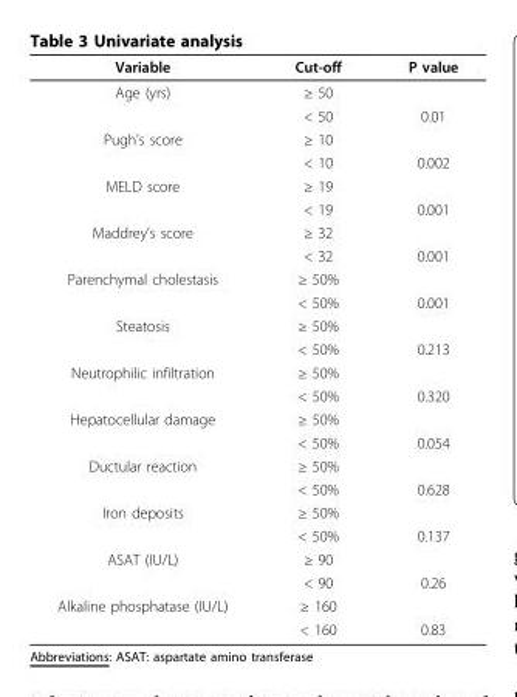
<table><thead><tr><td>Variable</td><td>Cut-off</td><td>P value</td></tr></thead><tbody><tr><td rowspan="2">Age (yrs)</td><td>≥ 50</td><td></td></tr><tr><td>&lt; 50</td><td>0.01</td></tr><tr><td rowspan="2">Pugh’s score</td><td>≥ 10</td><td></td></tr><tr><td>&lt; 10</td><td>0.002</td></tr><tr><td rowspan="2">MELD score</td><td>≥ 19</td><td></td></tr><tr><td>&lt; 19</td><td>0.001</td></tr><tr><td rowspan="2">Maddrey’s score</td><td>≥ 32</td><td></td></tr><tr><td>&lt; 32</td><td>0.001</td></tr><tr><td rowspan="2">Parenchymal cholestasis</td><td>≥ 50%</td><td></td></tr><tr><td>&lt; 50%</td><td>0.001</td></tr><tr><td rowspan="2">Steatosis</td><td>≥ 50%</td><td></td></tr><tr><td>&lt; 50%</td><td>0.213</td></tr><tr><td rowspan="2">Neutrophilic infiltration</td><td>≥ 50%</td><td></td></tr><tr><td>&lt; 50%</td><td>0.320</td></tr><tr><td rowspan="2">Hepatocellular damage</td><td>≥ 50%</td><td></td></tr><tr><td>&lt; 50%</td><td>0.054</td></tr><tr><td rowspan="2">Ductular reaction</td><td>≥ 50%</td><td></td></tr><tr><td>&lt; 50%</td><td>0.628</td></tr><tr><td rowspan="2">Iron deposits</td><td>≥ 50%</td><td></td></tr><tr><td>&lt; 50%</td><td>0.137</td></tr><tr><td rowspan="2">ASAT (IU/L)</td><td>≥ 90</td><td></td></tr><tr><td>&lt; 90</td><td>0.26</td></tr><tr><td rowspan="2">Alkaline phosphatase (IU/L)</td><td>≥ 160</td><td></td></tr><tr><td>&lt; 160</td><td>0.83</td></tr></tbody></table>